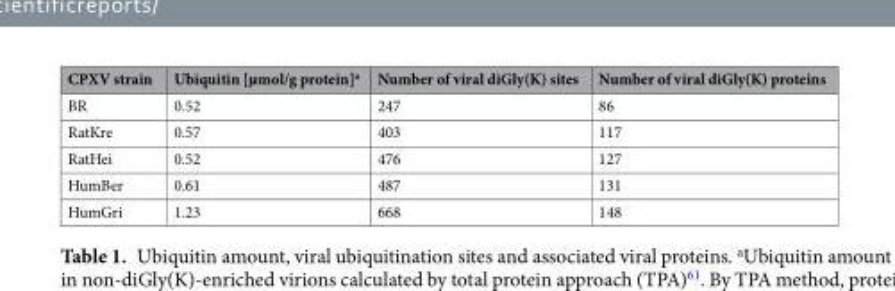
<table><thead><tr><td>CPXV strain</td><td>Ubiquitin [µmol/g protein]<sup>a</sup></td><td>Number of viral diGly(K) sites</td><td>Number of viral diGly(K) proteins</td></tr></thead><tbody><tr><td>BR</td><td>0.52</td><td>247</td><td>86</td></tr><tr><td>RatKre</td><td>0.57</td><td>403</td><td>117</td></tr><tr><td>RatHei</td><td>0.52</td><td>476</td><td>127</td></tr><tr><td>HumBer</td><td>0.61</td><td>487</td><td>131</td></tr><tr><td>HumGri</td><td>1.23</td><td>668</td><td>148</td></tr></tbody></table>